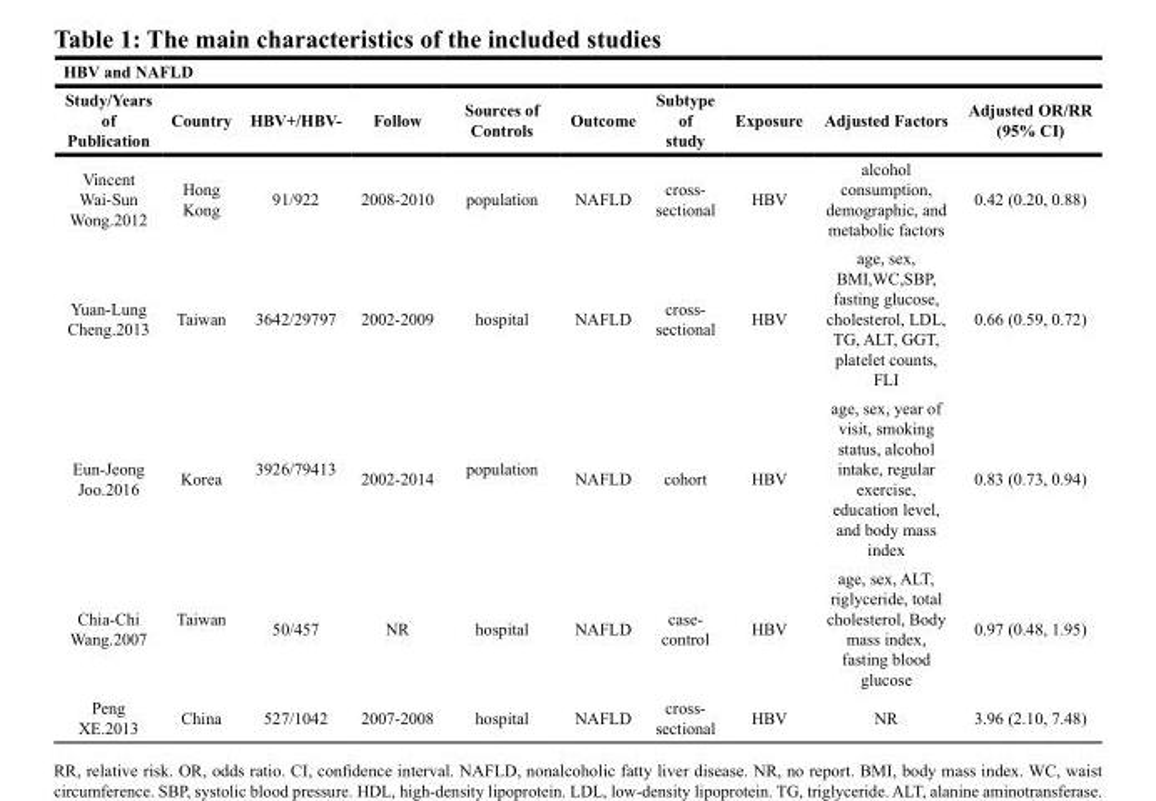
<table><thead><tr><td colspan="10">HBV and NAFLD</td></tr><tr><td>Study/Years of Publication</td><td>Country</td><td>HBV+/HBV-</td><td>Follow</td><td>Sources of Controls</td><td>Outcome</td><td>Subtype of study</td><td>Exposure</td><td>Adjusted Factors</td><td>Adjusted OR/RR (95% CI)</td></tr></thead><tbody><tr><td>Vincent Wai-Sun Wong.2012</td><td>Hong Kong</td><td>91/922</td><td>2008-2010</td><td>population</td><td>NAFLD</td><td>cross- sectional</td><td>HBV</td><td>alcohol consumption, demographic, and metabolic factors</td><td>0.42 (0.20, 0.88)</td></tr><tr><td>Yuan-Lung Cheng.2013</td><td>Taiwan</td><td>3642/29797</td><td>2002-2009</td><td>hospital</td><td>NAFLD</td><td>cross- sectional</td><td>HBV</td><td>age, sex, BMI,WC,SBP, fasting glucose, cholesterol, LDL, TG, ALT, GGT, platelet counts, FLI</td><td>0.66 (0.59, 0.72)</td></tr><tr><td>Eun-Jeong Joo.2016</td><td>Korea</td><td>3926/79413</td><td>2002-2014</td><td>population</td><td>NAFLD</td><td>cohort</td><td>HBV</td><td>age, sex, year of visit, smoking status, alcohol intake, regular exercise, education level, and body mass index</td><td>0.83 (0.73, 0.94)</td></tr><tr><td>Chia-Chi Wang.2007</td><td>Taiwan</td><td>50/457</td><td>NR</td><td>hospital</td><td>NAFLD</td><td>case- control</td><td>HBV</td><td>age, sex, ALT, riglyceride, total cholesterol, Body mass index, fasting blood glucose</td><td>0.97 (0.48, 1.95)</td></tr><tr><td>Peng XE.2013</td><td>China</td><td>527/1042</td><td>2007-2008</td><td>hospital</td><td>NAFLD</td><td>cross- sectional</td><td>HBV</td><td>NR</td><td>3.96 (2.10, 7.48)</td></tr></tbody></table>